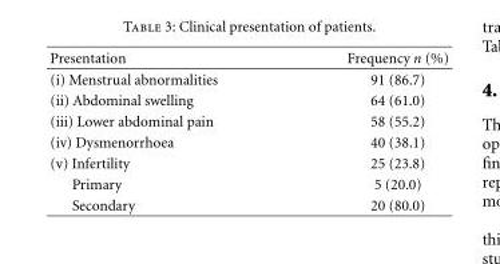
<table><thead><tr><td>Presentation</td><td>Frequency n (%)</td></tr></thead><tbody><tr><td>(i) Menstrual abnormalities</td><td>91 (86.7)</td></tr><tr><td>(ii) Abdominal swelling</td><td>64 (61.0)</td></tr><tr><td>(iii) Lower abdominal pain</td><td>58 (55.2)</td></tr><tr><td>(iv) Dysmenorrhoea</td><td>40 (38.1)</td></tr><tr><td>(v) Infertility</td><td>25 (23.8)</td></tr><tr><td>Primary</td><td>5 (20.0)</td></tr><tr><td>Secondary</td><td>20 (80.0)</td></tr></tbody></table>